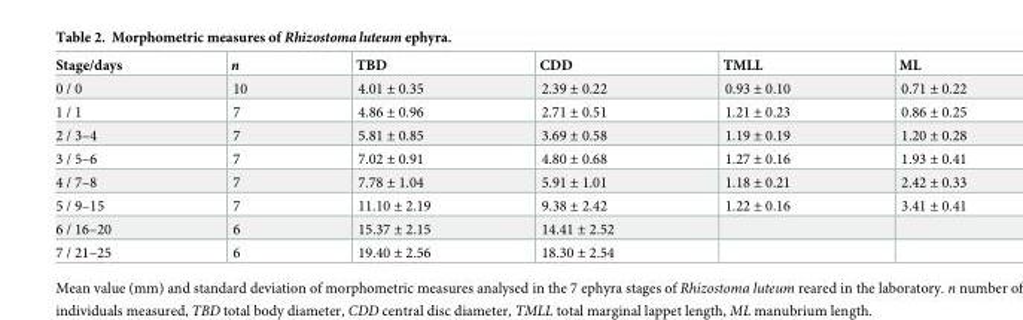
<table><thead><tr><td>Stage/days</td><td>n</td><td>TBD</td><td>CDD</td><td>TMLL</td><td>ML</td></tr></thead><tbody><tr><td>0 / 0</td><td>10</td><td>4.01 ± 0.35</td><td>2.39 ± 0.22</td><td>0.93 ± 0.10</td><td>0.71 ± 0.22</td></tr><tr><td>1 / 1</td><td>7</td><td>4.86 ± 0.96</td><td>2.71 ± 0.51</td><td>1.21 ± 0.23</td><td>0.86 ± 0.25</td></tr><tr><td>2 / 3–4</td><td>7</td><td>5.81 ± 0.85</td><td>3.69 ± 0.58</td><td>1.19 ± 0.19</td><td>1.20 ± 0.28</td></tr><tr><td>3 / 5–6</td><td>7</td><td>7.02 ± 0.91</td><td>4.80 ± 0.68</td><td>1.27 ± 0.16</td><td>1.93 ± 0.41</td></tr><tr><td>4 / 7–8</td><td>7</td><td>7.78 ± 1.04</td><td>5.91 ± 1.01</td><td>1.18 ± 0.21</td><td>2.42 ± 0.33</td></tr><tr><td>5 / 9–15</td><td>7</td><td>11.10 ± 2.19</td><td>9.38 ± 2.42</td><td>1.22 ± 0.16</td><td>3.41 ± 0.41</td></tr><tr><td>6 / 16–20</td><td>6</td><td>15.37 ± 2.15</td><td>14.41 ± 2.52</td><td></td><td></td></tr><tr><td>7 / 21–25</td><td>6</td><td>19.40 ± 2.56</td><td>18.30 ± 2.54</td><td></td><td></td></tr></tbody></table>